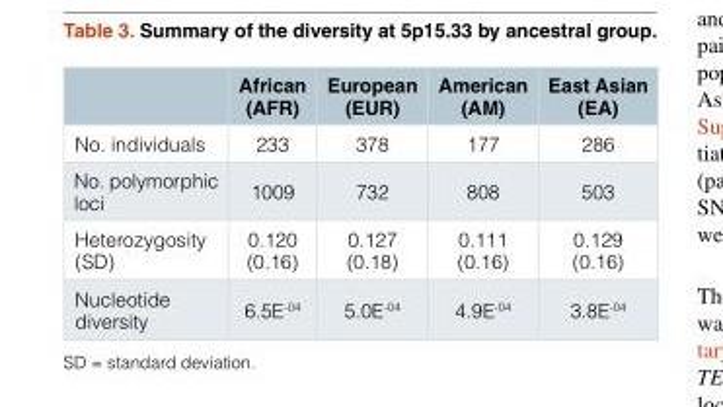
<table><thead><tr><td></td><td>African (AFR)</td><td>European (EUR)</td><td>American (AM)</td><td>East Asian (EA)</td></tr></thead><tbody><tr><td>No. individuals</td><td>233</td><td>378</td><td>177</td><td>286</td></tr><tr><td>No. polymorphic loci</td><td>1009</td><td>732</td><td>808</td><td>503</td></tr><tr><td>Heterozygosity (SD)</td><td>0.120 (0.16)</td><td>0.127 (0.18)</td><td>0.111 (0.16)</td><td>0.129 (0.16)</td></tr><tr><td>Nucleotide diversity</td><td>6.5E<sup>-04</sup></td><td>5.0E<sup>-04</sup></td><td>4.9E<sup>-04</sup></td><td>3.8E<sup>-04</sup></td></tr></tbody></table>